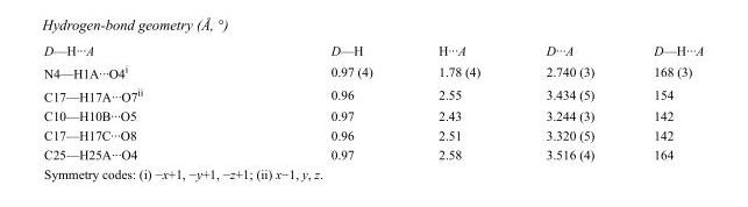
<table><tbody><tr><td>D—H···A</td><td>D—H</td><td>H···A</td><td>D···A</td><td>D—H···A</td></tr><tr><td>N4—H1A···O4<sup>i</sup></td><td>0.97 (4)</td><td>1.78 (4)</td><td>2.740 (3)</td><td>168 (3)</td></tr><tr><td>C17—H17A···O7<sup>ii</sup></td><td>0.96</td><td>2.55</td><td>3.434 (5)</td><td>154</td></tr><tr><td>C10—H10B···O5</td><td>0.97</td><td>2.43</td><td>3.244 (3)</td><td>142</td></tr><tr><td>C17—H17C···O8</td><td>0.96</td><td>2.51</td><td>3.320 (5)</td><td>142</td></tr><tr><td>C25—H25A···O4</td><td>0.97</td><td>2.58</td><td>3.516 (4)</td><td>164</td></tr></tbody></table>